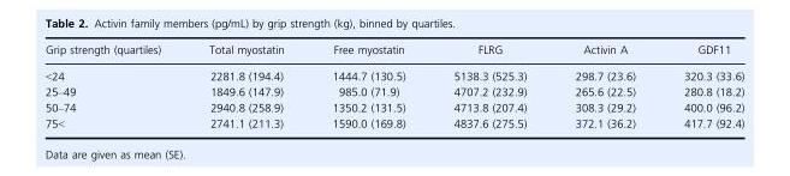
<table><thead><tr><td>Grip strength (quartiles)</td><td>Total myostatin</td><td>Free myostatin</td><td>FLRG</td><td>Activin A</td><td>GDF11</td></tr></thead><tbody><tr><td>&lt;24</td><td>2281.8 (194.4)</td><td>1444.7 (130.5)</td><td>5138.3 (525.3)</td><td>298.7 (23.6)</td><td>320.3 (33.6)</td></tr><tr><td>25–49</td><td>1849.6 (147.9)</td><td>985.0 (71.9)</td><td>4707.2 (232.9)</td><td>265.6 (22.5)</td><td>280.8 (18.2)</td></tr><tr><td>50–74</td><td>2940.8 (258.9)</td><td>1350.2 (131.5)</td><td>4713.8 (207.4)</td><td>308.3 (29.2)</td><td>400.0 (96.2)</td></tr><tr><td>75&lt;</td><td>2741.1 (211.3)</td><td>1590.0 (169.8)</td><td>4837.6 (275.5)</td><td>372.1 (36.2)</td><td>417.7 (92.4)</td></tr></tbody></table>